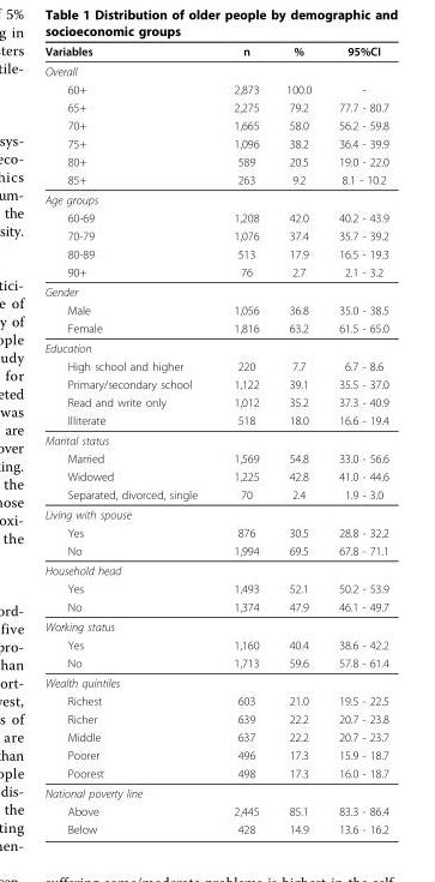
<table><thead><tr><td>Variables</td><td>n</td><td>%</td><td>95%CI</td></tr></thead><tbody><tr><td colspan="4">Overall</td></tr><tr><td>60+</td><td>2,873</td><td>100.0</td><td>-</td></tr><tr><td>65+</td><td>2,275</td><td>79.2</td><td>77.7 - 80.7</td></tr><tr><td>70+</td><td>1,665</td><td>58.0</td><td>56.2 - 59.8</td></tr><tr><td>75+</td><td>1,096</td><td>38.2</td><td>36.4 - 39.9</td></tr><tr><td>80+</td><td>589</td><td>20.5</td><td>19.0 - 22.0</td></tr><tr><td>85+</td><td>263</td><td>9.2</td><td>8.1 - 10.2</td></tr><tr><td colspan="4">Age groups</td></tr><tr><td>60-69</td><td>1,208</td><td>42.0</td><td>40.2 - 43.9</td></tr><tr><td>70-79</td><td>1,076</td><td>37.4</td><td>35.7 - 39.2</td></tr><tr><td>80-89</td><td>513</td><td>17.9</td><td>16.5 - 19.3</td></tr><tr><td>90+</td><td>76</td><td>2.7</td><td>2.1 - 3.2</td></tr><tr><td colspan="4">Gender</td></tr><tr><td>Male</td><td>1,056</td><td>36.8</td><td>35.0 - 38.5</td></tr><tr><td>Female</td><td>1,816</td><td>63.2</td><td>61.5 - 65.0</td></tr><tr><td colspan="4">Education</td></tr><tr><td>High school and higher</td><td>220</td><td>7.7</td><td>6.7 - 8.6</td></tr><tr><td>Primary/secondary school</td><td>1,122</td><td>39.1</td><td>35.5 - 37.0</td></tr><tr><td>Read and write only</td><td>1,012</td><td>35.2</td><td>37.3 - 40.9</td></tr><tr><td>Illiterate</td><td>518</td><td>18.0</td><td>16.6 - 19.4</td></tr><tr><td colspan="4">Marital status</td></tr><tr><td>Married</td><td>1,569</td><td>54.8</td><td>33.0 - 56.6</td></tr><tr><td>Widowed</td><td>1,225</td><td>42.8</td><td>41.0 - 44.6</td></tr><tr><td>Separated, divorced, single</td><td>70</td><td>2.4</td><td>1.9 - 3.0</td></tr><tr><td colspan="4">Living with spouse</td></tr><tr><td>Yes</td><td>876</td><td>30.5</td><td>28.8 - 32.2</td></tr><tr><td>No</td><td>1,994</td><td>69.5</td><td>67.8 - 71.1</td></tr><tr><td colspan="4">Household head</td></tr><tr><td>Yes</td><td>1,493</td><td>52.1</td><td>50.2 - 53.9</td></tr><tr><td>No</td><td>1,374</td><td>47.9</td><td>46.1 - 49.7</td></tr><tr><td colspan="4">Working status</td></tr><tr><td>Yes</td><td>1,160</td><td>40.4</td><td>38.6 - 42.2</td></tr><tr><td>No</td><td>1,713</td><td>59.6</td><td>57.8 - 61.4</td></tr><tr><td colspan="4">Wealth quintiles</td></tr><tr><td>Richest</td><td>603</td><td>21.0</td><td>19.5 - 22.5</td></tr><tr><td>Richer</td><td>639</td><td>22.2</td><td>20.7 - 23.8</td></tr><tr><td>Middle</td><td>637</td><td>22.2</td><td>20.7 - 23.7</td></tr><tr><td>Poorer</td><td>496</td><td>17.3</td><td>15.9 - 18.7</td></tr><tr><td>Poorest</td><td>498</td><td>17.3</td><td>16.0 - 18.7</td></tr><tr><td colspan="4">National poverty line</td></tr><tr><td>Above</td><td>2,445</td><td>85.1</td><td>83.3 - 86.4</td></tr><tr><td>Below</td><td>428</td><td>14.9</td><td>13.6 - 16.2</td></tr></tbody></table>